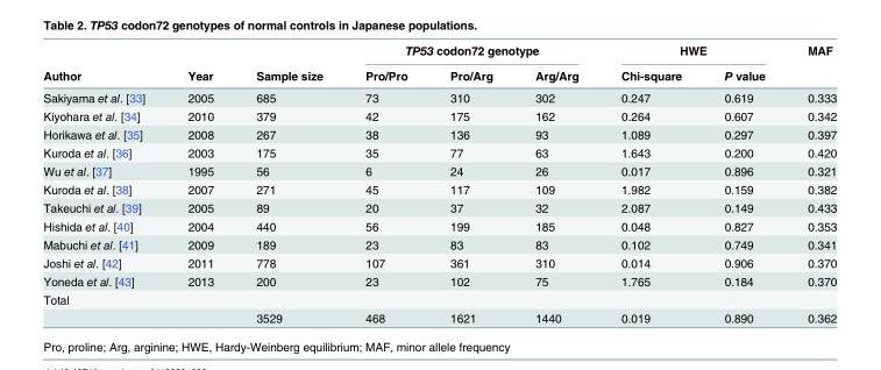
<table><thead><tr><td rowspan="2">Author</td><td rowspan="2">Year</td><td rowspan="2">Sample size</td><td colspan="3">TP53 codon72 genotype</td><td colspan="2">HWE</td><td rowspan="2">MAF</td></tr><tr><td>Pro/Pro</td><td>Pro/Arg</td><td>Arg/Arg</td><td>Chi-square</td><td>P value</td></tr></thead><tbody><tr><td>Sakiyama et al. [33]</td><td>2005</td><td>685</td><td>73</td><td>310</td><td>302</td><td>0.247</td><td>0.619</td><td>0.333</td></tr><tr><td>Kiyohara et al. [34]</td><td>2010</td><td>379</td><td>42</td><td>175</td><td>162</td><td>0.264</td><td>0.607</td><td>0.342</td></tr><tr><td>Horikawa et al. [35]</td><td>2008</td><td>267</td><td>38</td><td>136</td><td>93</td><td>1.089</td><td>0.297</td><td>0.397</td></tr><tr><td>Kuroda et al. [36]</td><td>2003</td><td>175</td><td>35</td><td>77</td><td>63</td><td>1.643</td><td>0.200</td><td>0.420</td></tr><tr><td>Wu et al. [37]</td><td>1995</td><td>56</td><td>6</td><td>24</td><td>26</td><td>0.017</td><td>0.896</td><td>0.321</td></tr><tr><td>Kuroda et al. [38]</td><td>2007</td><td>271</td><td>45</td><td>117</td><td>109</td><td>1.982</td><td>0.159</td><td>0.382</td></tr><tr><td>Takeuchi et al. [39]</td><td>2005</td><td>89</td><td>20</td><td>37</td><td>32</td><td>2.087</td><td>0.149</td><td>0.433</td></tr><tr><td>Hishida et al. [40]</td><td>2004</td><td>440</td><td>56</td><td>199</td><td>185</td><td>0.048</td><td>0.827</td><td>0.353</td></tr><tr><td>Mabuchi et al. [41]</td><td>2009</td><td>189</td><td>23</td><td>83</td><td>83</td><td>0.102</td><td>0.749</td><td>0.341</td></tr><tr><td>Joshi et al. [42]</td><td>2011</td><td>778</td><td>107</td><td>361</td><td>310</td><td>0.014</td><td>0.906</td><td>0.370</td></tr><tr><td>Yoneda et al. [43]</td><td>2013</td><td>200</td><td>23</td><td>102</td><td>75</td><td>1.765</td><td>0.184</td><td>0.370</td></tr><tr><td colspan="9">Total</td></tr><tr><td></td><td></td><td>3529</td><td>468</td><td>1621</td><td>1440</td><td>0.019</td><td>0.890</td><td>0.362</td></tr></tbody></table>